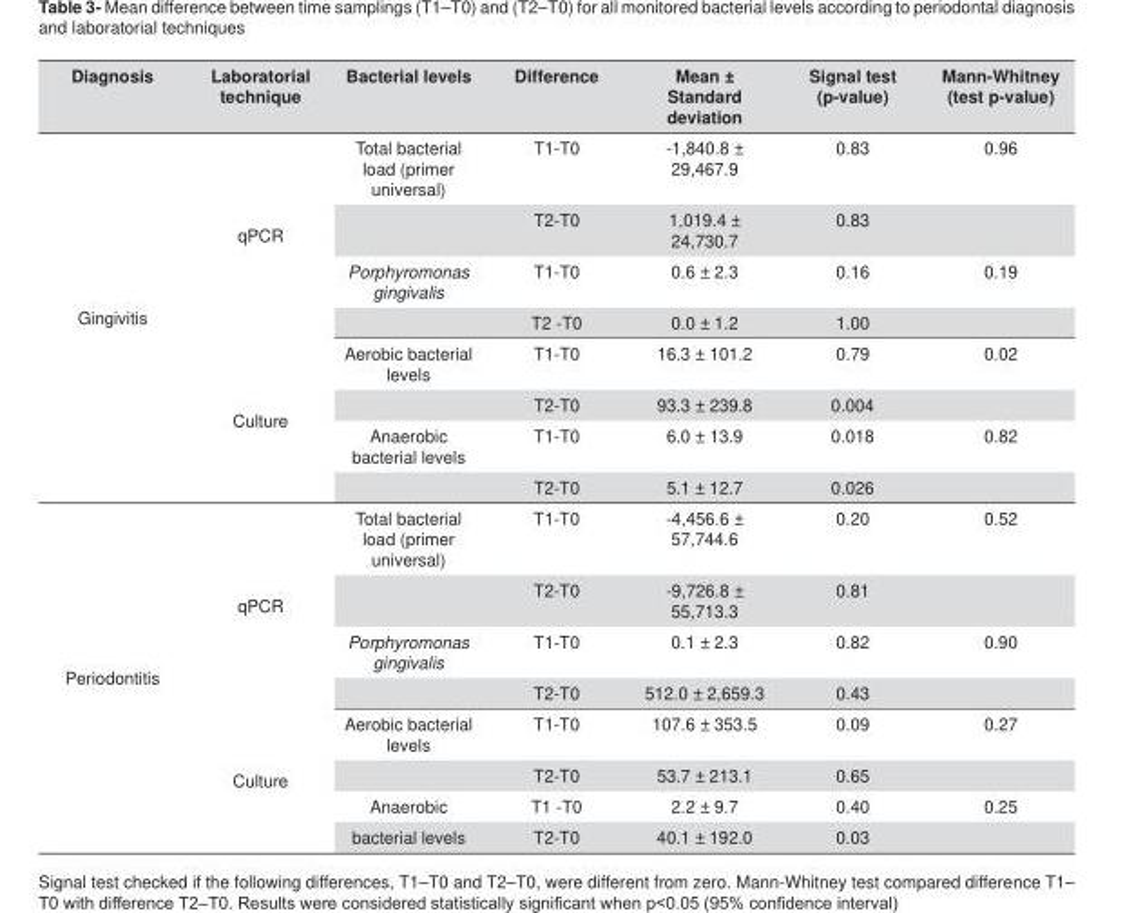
<table><thead><tr><td>Diagnosis</td><td>Laboratorial technique</td><td>Bacterial levels</td><td>Difference</td><td>Mean ± Standard deviation</td><td>Signal test (p-value)</td><td>Mann-Whitney (test p-value)</td></tr></thead><tbody><tr><td rowspan="8">Gingivitis</td><td rowspan="4">qPCR</td><td>Total bacterial load (primer universal)</td><td>T1-T0</td><td>-1,840.8 ± 29,467.9</td><td>0.83</td><td>0.96</td></tr><tr><td></td><td>T2-T0</td><td>1,019.4 ± 24,730.7</td><td>0.83</td><td></td></tr><tr><td>Porphyromonas gingivalis</td><td>T1-T0</td><td>0.6 ± 2.3</td><td>0.16</td><td>0.19</td></tr><tr><td></td><td>T2 -T0</td><td>0.0 ± 1.2</td><td>1.00</td><td></td></tr><tr><td rowspan="4">Culture</td><td>Aerobic bacterial levels</td><td>T1-T0</td><td>16.3 ± 101.2</td><td>0.79</td><td>0.02</td></tr><tr><td></td><td>T2-T0</td><td>93.3 ± 239.8</td><td>0.004</td><td></td></tr><tr><td>Anaerobic bacterial levels</td><td>T1-T0</td><td>6.0 ± 13.9</td><td>0.018</td><td>0.82</td></tr><tr><td></td><td>T2-T0</td><td>5.1 ± 12.7</td><td>0.026</td><td></td></tr><tr><td rowspan="8">Periodontitis</td><td rowspan="4">qPCR</td><td>Total bacterial load (primer universal)</td><td>T1-T0</td><td>-4,456.6 ± 57,744.6</td><td>0.20</td><td>0.52</td></tr><tr><td></td><td>T2-T0</td><td>-9,726.8 ± 55,713.3</td><td>0.81</td><td></td></tr><tr><td>Porphyromonas gingivalis</td><td>T1-T0</td><td>0.1 ± 2.3</td><td>0.82</td><td>0.90</td></tr><tr><td></td><td>T2-T0</td><td>512.0 ± 2,659.3</td><td>0.43</td><td></td></tr><tr><td rowspan="4">Culture</td><td>Aerobic bacterial levels</td><td>T1-T0</td><td>107.6 ± 353.5</td><td>0.09</td><td>0.27</td></tr><tr><td></td><td>T2-T0</td><td>53.7 ± 213.1</td><td>0.65</td><td></td></tr><tr><td>Anaerobic</td><td>T1 -T0</td><td>2.2 ± 9.7</td><td>0.40</td><td>0.25</td></tr><tr><td>bacterial levels</td><td>T2-T0</td><td>40.1 ± 192.0</td><td>0.03</td><td></td></tr></tbody></table>